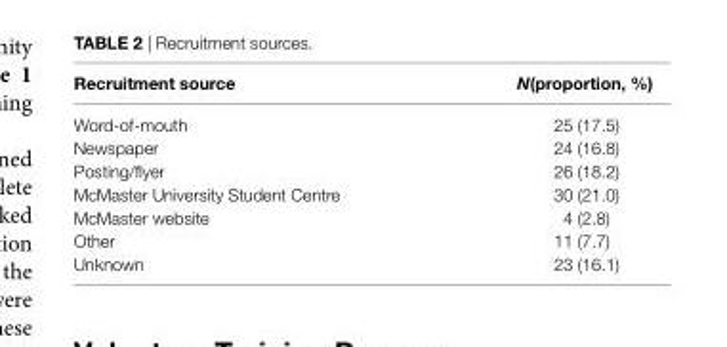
<table><thead><tr><td>Recruitment source</td><td>N(proportion, %)</td></tr></thead><tbody><tr><td>Word-of-mouth</td><td>25 (17.5)</td></tr><tr><td>Newspaper</td><td>24 (16.8)</td></tr><tr><td>Posting/flyer</td><td>26 (18.2)</td></tr><tr><td>McMaster University Student Centre</td><td>30 (21.0)</td></tr><tr><td>McMaster website</td><td>4 (2.8)</td></tr><tr><td>Other</td><td>11 (7.7)</td></tr><tr><td>Unknown</td><td>23 (16.1)</td></tr></tbody></table>